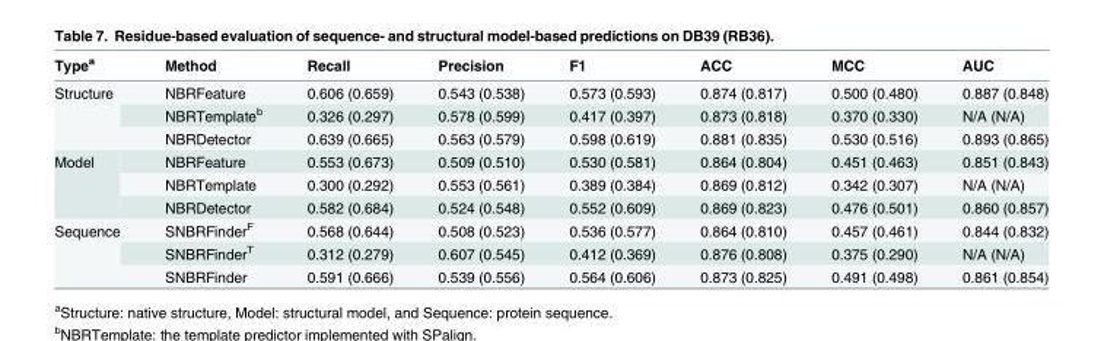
<table><thead><tr><td>Type<sup>a</sup></td><td>Method</td><td>Recall</td><td>Precision</td><td>F1</td><td>ACC</td><td>MCC</td><td>AUC</td></tr></thead><tbody><tr><td rowspan="3">Structure</td><td>NBRFeature</td><td>0.606 (0.659)</td><td>0.543 (0.538)</td><td>0.573 (0.593)</td><td>0.874 (0.817)</td><td>0.500 (0.480)</td><td>0.887 (0.848)</td></tr><tr><td>NBRTemplate<sup>b</sup></td><td>0.326 (0.297)</td><td>0.578 (0.599)</td><td>0.417 (0.397)</td><td>0.873 (0.818)</td><td>0.370 (0.330)</td><td>N/A (N/A)</td></tr><tr><td>NBRDetector</td><td>0.639 (0.665)</td><td>0.563 (0.579)</td><td>0.598 (0.619)</td><td>0.881 (0.835)</td><td>0.530 (0.516)</td><td>0.893 (0.865)</td></tr><tr><td rowspan="3">Model</td><td>NBRFeature</td><td>0.553 (0.673)</td><td>0.509 (0.510)</td><td>0.530 (0.581)</td><td>0.864 (0.804)</td><td>0.451 (0.463)</td><td>0.851 (0.843)</td></tr><tr><td>NBRTemplate</td><td>0.300 (0.292)</td><td>0.553 (0.561)</td><td>0.389 (0.384)</td><td>0.869 (0.812)</td><td>0.342 (0.307)</td><td>N/A (N/A)</td></tr><tr><td>NBRDetector</td><td>0.582 (0.684)</td><td>0.524 (0.548)</td><td>0.552 (0.609)</td><td>0.869 (0.823)</td><td>0.476 (0.501)</td><td>0.860 (0.857)</td></tr><tr><td rowspan="3">Sequence</td><td>SNBRFinder<sup>F</sup></td><td>0.568 (0.644)</td><td>0.508 (0.523)</td><td>0.536 (0.577)</td><td>0.864 (0.810)</td><td>0.457 (0.461)</td><td>0.844 (0.832)</td></tr><tr><td>SNBRFinder<sup>T</sup></td><td>0.312 (0.279)</td><td>0.607 (0.545)</td><td>0.412 (0.369)</td><td>0.876 (0.808)</td><td>0.375 (0.290)</td><td>N/A (N/A)</td></tr><tr><td>SNBRFinder</td><td>0.591 (0.666)</td><td>0.539 (0.556)</td><td>0.564 (0.606)</td><td>0.873 (0.825)</td><td>0.491 (0.498)</td><td>0.861 (0.854)</td></tr></tbody></table>